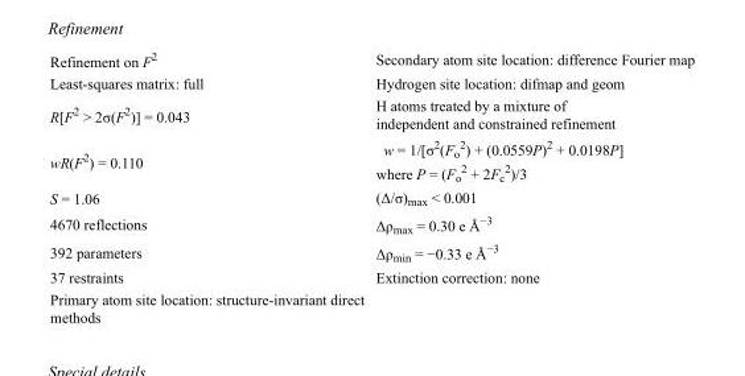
<table><tbody><tr><td>Refinement on F<sup>2</sup></td><td>Secondary atom site location: difference Fourier map</td></tr><tr><td>Least-squares matrix: full</td><td>Hydrogen site location: difmap and geom</td></tr><tr><td>R[F<sup>2</sup> &gt; 2σ(F<sup>2</sup>)] = 0.043</td><td>H atoms treated by a mixture of independent and constrained refinement</td></tr><tr><td>wR(F<sup>2</sup>) = 0.110</td><td>w = 1/[σ<sup>2</sup>(F<sub>o</sub> <sup>2</sup>) + (0.0559P)<sup>2</sup> + 0.0198P] where P = (F<sub>o</sub> <sup>2</sup> + 2F<sub>c</sub> <sup>2</sup>)/3</td></tr><tr><td>S = 1.06</td><td>(Δ/σ)<sub>max</sub> &lt; 0.001</td></tr><tr><td>4670 reflections</td><td>Δρ<sub>max</sub> = 0.30 e Å<sup>−3</sup></td></tr><tr><td>392 parameters</td><td>Δρ<sub>min</sub> = −0.33 e Å<sup>−3</sup></td></tr><tr><td>37 restraints</td><td>Extinction correction: none</td></tr><tr><td>Primary atom site location: structure-invariant direct methods</td><td></td></tr></tbody></table>